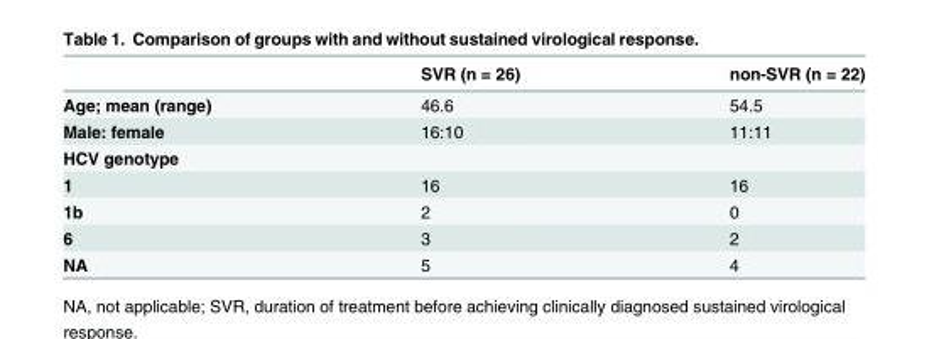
<table><thead><tr><td></td><td>SVR (n = 26)</td><td>non-SVR (n = 22)</td></tr></thead><tbody><tr><td>Age; mean (range)</td><td>46.6</td><td>54.5</td></tr><tr><td>Male: female</td><td>16:10</td><td>11:11</td></tr><tr><td colspan="3">HCV genotype</td></tr><tr><td>1</td><td>16</td><td>16</td></tr><tr><td>1b</td><td>2</td><td>0</td></tr><tr><td>6</td><td>3</td><td>2</td></tr><tr><td>NA</td><td>5</td><td>4</td></tr></tbody></table>